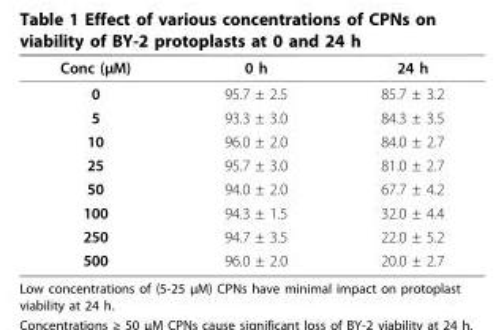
<table><thead><tr><td>Conc (μM)</td><td>0 h</td><td>24 h</td></tr></thead><tbody><tr><td>0</td><td>95.7 ± 2.5</td><td>85.7 ± 3.2</td></tr><tr><td>5</td><td>93.3 ± 3.0</td><td>84.3 ± 3.5</td></tr><tr><td>10</td><td>96.0 ± 2.0</td><td>84.0 ± 2.7</td></tr><tr><td>25</td><td>95.7 ± 3.0</td><td>81.0 ± 2.7</td></tr><tr><td>50</td><td>94.0 ± 2.0</td><td>67.7 ± 4.2</td></tr><tr><td>100</td><td>94.3 ± 1.5</td><td>32.0 ± 4.4</td></tr><tr><td>250</td><td>94.7 ± 3.5</td><td>22.0 ± 5.2</td></tr><tr><td>500</td><td>96.0 ± 2.0</td><td>20.0 ± 2.7</td></tr></tbody></table>